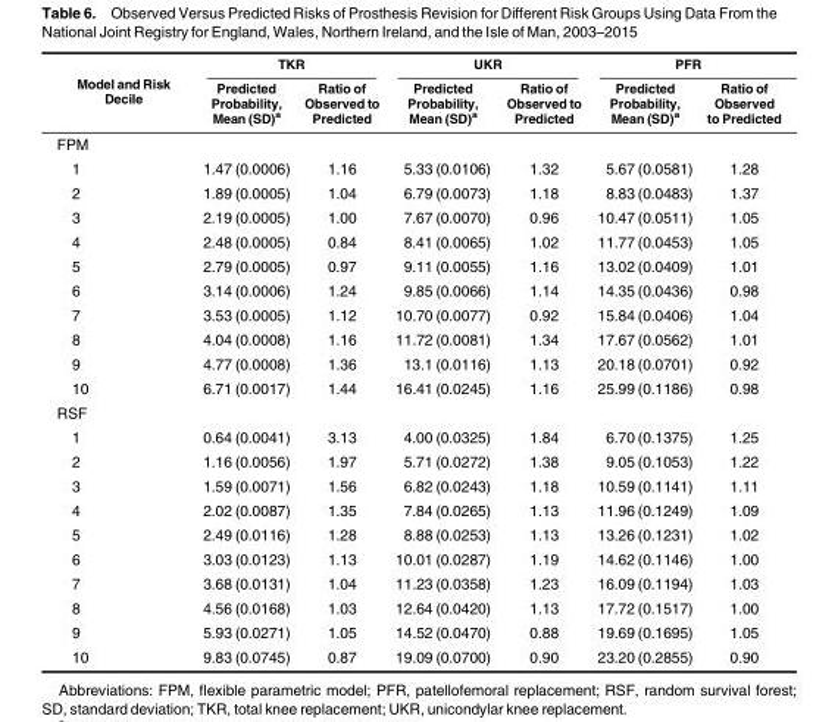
<table><thead><tr><td rowspan="2">Model and Risk Decile</td><td colspan="2">TKR</td><td colspan="2">UKR</td><td colspan="2">PFR</td></tr><tr><td>Predicted Probability, Mean (SD)<sup>a</sup></td><td>Ratio of Observed to Predicted</td><td>Predicted Probability, Mean (SD)<sup>a</sup></td><td>Ratio of Observed to Predicted</td><td>Predicted Probability, Mean (SD)<sup>a</sup></td><td>Ratio of Observed to Predicted</td></tr></thead><tbody><tr><td colspan="7">FPM</td></tr><tr><td>1</td><td>1.47 (0.0006)</td><td>1.16</td><td>5.33 (0.0106)</td><td>1.32</td><td>5.67 (0.0581)</td><td>1.28</td></tr><tr><td>2</td><td>1.89 (0.0005)</td><td>1.04</td><td>6.79 (0.0073)</td><td>1.18</td><td>8.83 (0.0483)</td><td>1.37</td></tr><tr><td>3</td><td>2.19 (0.0005)</td><td>1.00</td><td>7.67 (0.0070)</td><td>0.96</td><td>10.47 (0.0511)</td><td>1.05</td></tr><tr><td>4</td><td>2.48 (0.0005)</td><td>0.84</td><td>8.41 (0.0065)</td><td>1.02</td><td>11.77 (0.0453)</td><td>1.05</td></tr><tr><td>5</td><td>2.79 (0.0005)</td><td>0.97</td><td>9.11 (0.0055)</td><td>1.16</td><td>13.02 (0.0409)</td><td>1.01</td></tr><tr><td>6</td><td>3.14 (0.0006)</td><td>1.24</td><td>9.85 (0.0066)</td><td>1.14</td><td>14.35 (0.0436)</td><td>0.98</td></tr><tr><td>7</td><td>3.53 (0.0005)</td><td>1.12</td><td>10.70 (0.0077)</td><td>0.92</td><td>15.84 (0.0406)</td><td>1.04</td></tr><tr><td>8</td><td>4.04 (0.0008)</td><td>1.16</td><td>11.72 (0.0081)</td><td>1.34</td><td>17.67 (0.0562)</td><td>1.01</td></tr><tr><td>9</td><td>4.77 (0.0008)</td><td>1.36</td><td>13.1 (0.0116)</td><td>1.13</td><td>20.18 (0.0701)</td><td>0.92</td></tr><tr><td>10</td><td>6.71 (0.0017)</td><td>1.44</td><td>16.41 (0.0245)</td><td>1.16</td><td>25.99 (0.1186)</td><td>0.98</td></tr><tr><td colspan="7">RSF</td></tr><tr><td>1</td><td>0.64 (0.0041)</td><td>3.13</td><td>4.00 (0.0325)</td><td>1.84</td><td>6.70 (0.1375)</td><td>1.25</td></tr><tr><td>2</td><td>1.16 (0.0056)</td><td>1.97</td><td>5.71 (0.0272)</td><td>1.38</td><td>9.05 (0.1053)</td><td>1.22</td></tr><tr><td>3</td><td>1.59 (0.0071)</td><td>1.56</td><td>6.82 (0.0243)</td><td>1.18</td><td>10.59 (0.1141)</td><td>1.11</td></tr><tr><td>4</td><td>2.02 (0.0087)</td><td>1.35</td><td>7.84 (0.0265)</td><td>1.13</td><td>11.96 (0.1249)</td><td>1.09</td></tr><tr><td>5</td><td>2.49 (0.0116)</td><td>1.28</td><td>8.88 (0.0253)</td><td>1.13</td><td>13.26 (0.1231)</td><td>1.02</td></tr><tr><td>6</td><td>3.03 (0.0123)</td><td>1.13</td><td>10.01 (0.0287)</td><td>1.19</td><td>14.62 (0.1146)</td><td>1.00</td></tr><tr><td>7</td><td>3.68 (0.0131)</td><td>1.04</td><td>11.23 (0.0358)</td><td>1.23</td><td>16.09 (0.1194)</td><td>1.03</td></tr><tr><td>8</td><td>4.56 (0.0168)</td><td>1.03</td><td>12.64 (0.0420)</td><td>1.13</td><td>17.72 (0.1517)</td><td>1.00</td></tr><tr><td>9</td><td>5.93 (0.0271)</td><td>1.05</td><td>14.52 (0.0470)</td><td>0.88</td><td>19.69 (0.1695)</td><td>1.05</td></tr><tr><td>10</td><td>9.83 (0.0745)</td><td>0.87</td><td>19.09 (0.0700)</td><td>0.90</td><td>23.20 (0.2855)</td><td>0.90</td></tr></tbody></table>